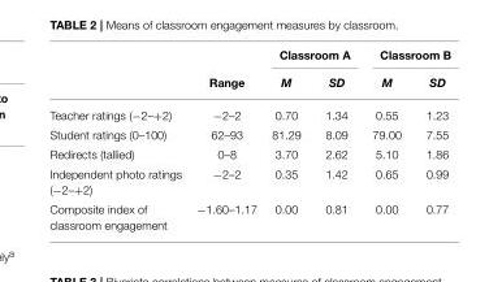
<table><thead><tr><td rowspan="2"></td><td rowspan="2">Range</td><td colspan="2">Classroom A</td><td colspan="2">Classroom B</td></tr><tr><td>M</td><td>SD</td><td>M</td><td>SD</td></tr></thead><tbody><tr><td>Teacher ratings (−2–+2)</td><td>−2–2</td><td>0.70</td><td>1.34</td><td>0.55</td><td>1.23</td></tr><tr><td>Student ratings (0–100)</td><td>62–93</td><td>81.29</td><td>8.09</td><td>79.00</td><td>7.55</td></tr><tr><td>Redirects (tallied)</td><td>0–8</td><td>3.70</td><td>2.62</td><td>5.10</td><td>1.86</td></tr><tr><td>Independent photo ratings (−2–+2)</td><td>−2–2</td><td>0.35</td><td>1.42</td><td>0.65</td><td>0.99</td></tr><tr><td>Composite index of classroom engagement</td><td>−1.60–1.17</td><td>0.00</td><td>0.81</td><td>0.00</td><td>0.77</td></tr></tbody></table>